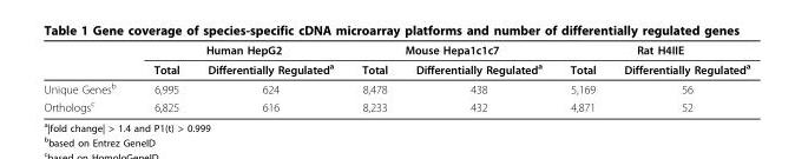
<table><thead><tr><td rowspan="2"></td><td colspan="2">Human HepG2</td><td colspan="2">Mouse Hepa1c1c7</td><td colspan="2">Rat H4IIE</td></tr><tr><td>Total</td><td>Differentially Regulated<sup>a</sup></td><td>Total</td><td>Differentially Regulated<sup>a</sup></td><td>Total</td><td>Differentially Regulated<sup>a</sup></td></tr></thead><tbody><tr><td>Unique Genes<sup>b</sup></td><td>6,995</td><td>624</td><td>8,478</td><td>438</td><td>5,169</td><td>56</td></tr><tr><td>Orthologs<sup>c</sup></td><td>6,825</td><td>616</td><td>8,233</td><td>432</td><td>4,871</td><td>52</td></tr></tbody></table>